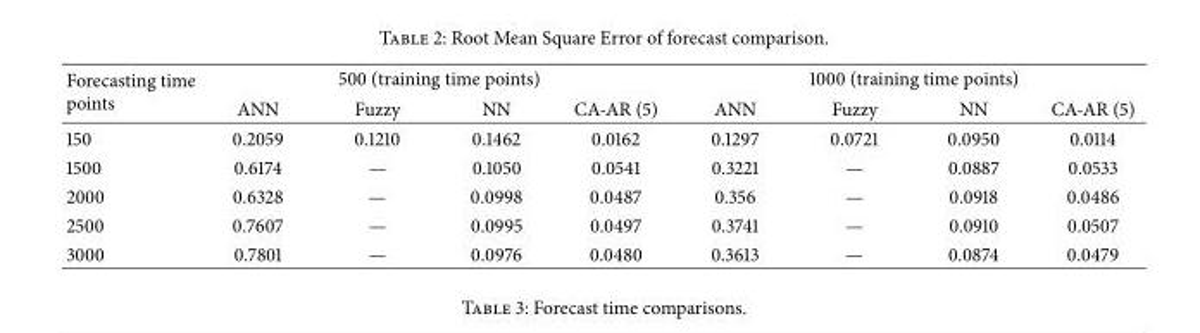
<table><thead><tr><td rowspan="2">Forecasting time points</td><td colspan="4">500 (training time points)</td><td colspan="4">1000 (training time points)</td></tr><tr><td>ANN</td><td>Fuzzy</td><td>NN</td><td>CA-AR (5)</td><td>ANN</td><td>Fuzzy</td><td>NN</td><td>CA-AR (5)</td></tr></thead><tbody><tr><td>150</td><td>0.2059</td><td>0.1210</td><td>0.1462</td><td>0.0162</td><td>0.1297</td><td>0.0721</td><td>0.0950</td><td>0.0114</td></tr><tr><td>1500</td><td>0.6174</td><td>—</td><td>0.1050</td><td>0.0541</td><td>0.3221</td><td>—</td><td>0.0887</td><td>0.0533</td></tr><tr><td>2000</td><td>0.6328</td><td>—</td><td>0.0998</td><td>0.0487</td><td>0.356</td><td>—</td><td>0.0918</td><td>0.0486</td></tr><tr><td>2500</td><td>0.7607</td><td>—</td><td>0.0995</td><td>0.0497</td><td>0.3741</td><td>—</td><td>0.0910</td><td>0.0507</td></tr><tr><td>3000</td><td>0.7801</td><td>—</td><td>0.0976</td><td>0.0480</td><td>0.3613</td><td>—</td><td>0.0874</td><td>0.0479</td></tr></tbody></table>